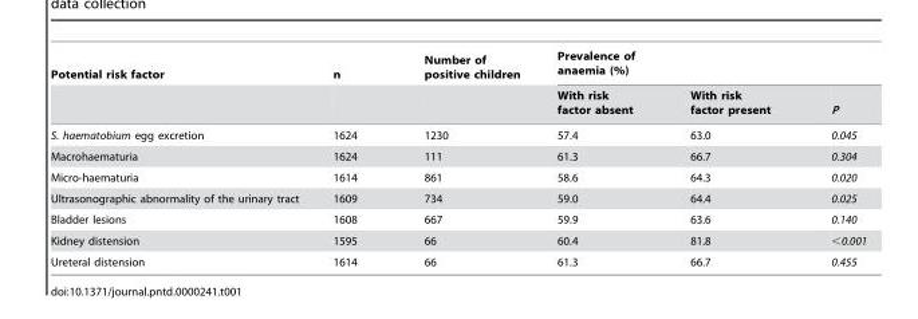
<table><thead><tr><td rowspan="2">Potential risk factor</td><td rowspan="2">n</td><td rowspan="2">Number of positive children</td><td colspan="3">Prevalence of anaemia (%)</td></tr><tr><td>With risk factor absent</td><td>With risk factor present</td><td>P</td></tr></thead><tbody><tr><td>S. haematobium egg excretion</td><td>1624</td><td>1230</td><td>57.4</td><td>63.0</td><td>0.045</td></tr><tr><td>Macrohaematuria</td><td>1624</td><td>111</td><td>61.3</td><td>66.7</td><td>0.304</td></tr><tr><td>Micro-haematuria</td><td>1614</td><td>861</td><td>58.6</td><td>64.3</td><td>0.020</td></tr><tr><td>Ultrasonographic abnormality of the urinary tract</td><td>1609</td><td>734</td><td>59.0</td><td>64.4</td><td>0.025</td></tr><tr><td>Bladder lesions</td><td>1608</td><td>667</td><td>59.9</td><td>63.6</td><td>0.140</td></tr><tr><td>Kidney distension</td><td>1595</td><td>66</td><td>60.4</td><td>81.8</td><td>&lt;0.001</td></tr><tr><td>Ureteral distension</td><td>1614</td><td>66</td><td>61.3</td><td>66.7</td><td>0.455</td></tr></tbody></table>